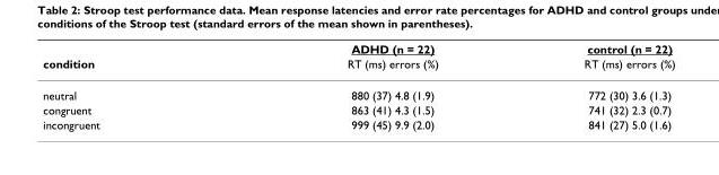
<table><thead><tr><td rowspan="2">condition</td><td rowspan="2">ADHD (n = 22) RT (ms) errors (%)</td><td rowspan="2">control (n = 22) RT (ms) errors (%)</td></tr><tr></tr></thead><tbody><tr><td>neutral</td><td>880 (37) 4.8 (1.9)</td><td>772 (30) 3.6 (1.3)</td></tr><tr><td>congruent</td><td>863 (41) 4.3 (1.5)</td><td>741 (32) 2.3 (0.7)</td></tr><tr><td>incongruent</td><td>999 (45) 9.9 (2.0)</td><td>841 (27) 5.0 (1.6)</td></tr></tbody></table>